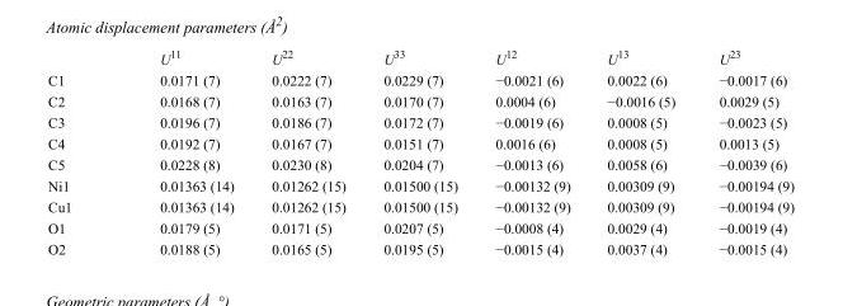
<table><thead><tr><td></td><td>U<sup>11</sup></td><td>U<sup>22</sup></td><td>U<sup>33</sup></td><td>U<sup>12</sup></td><td>U<sup>13</sup></td><td>U<sup>23</sup></td></tr></thead><tbody><tr><td>C1</td><td>0.0171 (7)</td><td>0.0222 (7)</td><td>0.0229 (7)</td><td>−0.0021 (6)</td><td>0.0022 (6)</td><td>−0.0017 (6)</td></tr><tr><td>C2</td><td>0.0168 (7)</td><td>0.0163 (7)</td><td>0.0170 (7)</td><td>0.0004 (6)</td><td>−0.0016 (5)</td><td>0.0029 (5)</td></tr><tr><td>C3</td><td>0.0196 (7)</td><td>0.0186 (7)</td><td>0.0172 (7)</td><td>−0.0019 (6)</td><td>0.0008 (5)</td><td>−0.0023 (5)</td></tr><tr><td>C4</td><td>0.0192 (7)</td><td>0.0167 (7)</td><td>0.0151 (7)</td><td>0.0016 (6)</td><td>0.0008 (5)</td><td>0.0013 (5)</td></tr><tr><td>C5</td><td>0.0228 (8)</td><td>0.0230 (8)</td><td>0.0204 (7)</td><td>−0.0013 (6)</td><td>0.0058 (6)</td><td>−0.0039 (6)</td></tr><tr><td>Ni1</td><td>0.01363 (14)</td><td>0.01262 (15)</td><td>0.01500 (15)</td><td>−0.00132 (9)</td><td>0.00309 (9)</td><td>−0.00194 (9)</td></tr><tr><td>Cu1</td><td>0.01363 (14)</td><td>0.01262 (15)</td><td>0.01500 (15)</td><td>−0.00132 (9)</td><td>0.00309 (9)</td><td>−0.00194 (9)</td></tr><tr><td>O1</td><td>0.0179 (5)</td><td>0.0171 (5)</td><td>0.0207 (5)</td><td>−0.0008 (4)</td><td>0.0029 (4)</td><td>−0.0019 (4)</td></tr><tr><td>O2</td><td>0.0188 (5)</td><td>0.0165 (5)</td><td>0.0195 (5)</td><td>−0.0015 (4)</td><td>0.0037 (4)</td><td>−0.0015 (4)</td></tr></tbody></table>